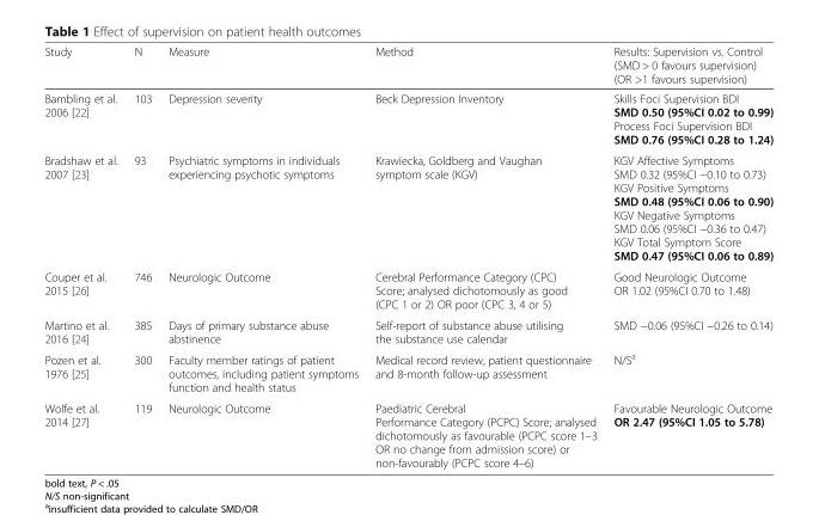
<table><thead><tr><td>Study</td><td>N</td><td>Measure</td><td>Method</td><td>Results: Supervision vs. Control (SMD &gt; 0 favours supervision) (OR &gt;1 favours supervision)</td></tr></thead><tbody><tr><td>Bambling et al. 2006 [22]</td><td>103</td><td>Depression severity</td><td>Beck Depression Inventory</td><td>Skills Foci Supervision BDI SMD 0.50 (95%CI 0.02 to 0.99) Process Foci Supervision BDI SMD 0.76 (95%CI 0.28 to 1.24)</td></tr><tr><td>Bradshaw et al. 2007 [23]</td><td>93</td><td>Psychiatric symptoms in individuals experiencing psychotic symptoms</td><td>Krawiecka, Goldberg and Vaughan symptom scale (KGV)</td><td>KGV Affective Symptoms SMD 0.32 (95%CI −0.10 to 0.73) KGV Positive Symptoms SMD 0.48 (95%CI 0.06 to 0.90) KGV Negative Symptoms SMD 0.06 (95%CI −0.36 to 0.47) KGV Total Symptom Score SMD 0.47 (95%CI 0.06 to 0.89)</td></tr><tr><td>Couper et al. 2015 [26]</td><td>746</td><td>Neurologic Outcome</td><td>Cerebral Performance Category (CPC) Score; analysed dichotomously as good (CPC 1 or 2) OR poor (CPC 3, 4 or 5)</td><td>Good Neurologic Outcome OR 1.02 (95%CI 0.70 to 1.48)</td></tr><tr><td>Martino et al. 2016 [24]</td><td>385</td><td>Days of primary substance abuse abstinence</td><td>Self-report of substance abuse utilising the substance use calendar</td><td>SMD −0.06 (95%CI −0.26 to 0.14)</td></tr><tr><td>Pozen et al. 1976 [25]</td><td>300</td><td>Faculty member ratings of patient outcomes, including patient symptoms function and health status</td><td>Medical record review, patient questionnaire and 8-month follow-up assessment</td><td>N/S<sup>a</sup></td></tr><tr><td>Wolfe et al. 2014 [27]</td><td>119</td><td>Neurologic Outcome</td><td>Paediatric Cerebral Performance Category (PCPC) Score; analysed dichotomously as favourable (PCPC score 1–3 OR no change from admission score) or non-favourably (PCPC score 4–6)</td><td>Favourable Neurologic Outcome OR 2.47 (95%CI 1.05 to 5.78)</td></tr></tbody></table>